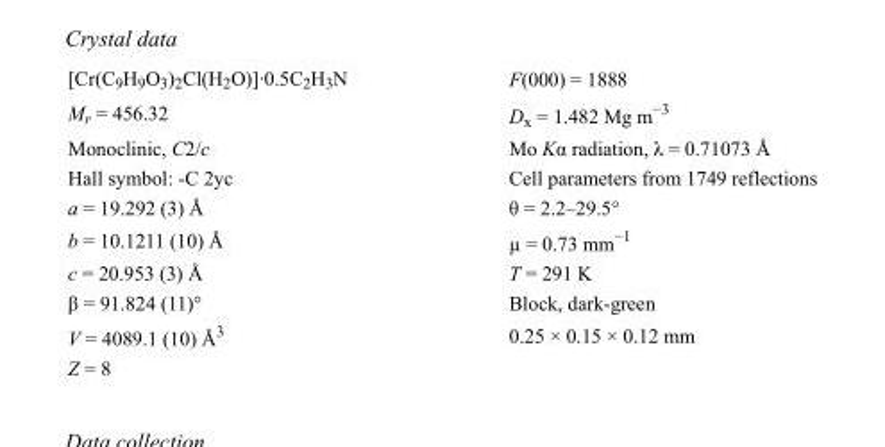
<table><tbody><tr><td>[Cr(C<sub>9</sub>H<sub>9</sub>O<sub>3</sub>)<sub>2</sub>Cl(H<sub>2</sub>O)]·0.5C<sub>2</sub>H<sub>3</sub>N</td><td>F(000) = 1888</td></tr><tr><td>M<sub>r</sub> = 456.32</td><td>D<sub>x</sub> = 1.482 Mg m<sup>−3</sup></td></tr><tr><td>Monoclinic, C2/c</td><td>Mo Kα radiation, λ = 0.71073 Å</td></tr><tr><td>Hall symbol: -C 2yc</td><td>Cell parameters from 1749 reflections</td></tr><tr><td>a = 19.292 (3) Å</td><td>θ = 2.2–29.5°</td></tr><tr><td>b = 10.1211 (10) Å</td><td>µ = 0.73 mm<sup>−1</sup></td></tr><tr><td>c = 20.953 (3) Å</td><td>T = 291 K</td></tr><tr><td>β = 91.824 (11)°</td><td>Block, dark-green</td></tr><tr><td>V = 4089.1 (10) Å<sup>3</sup></td><td>0.25 × 0.15 × 0.12 mm</td></tr><tr><td>Z = 8</td><td></td></tr></tbody></table>